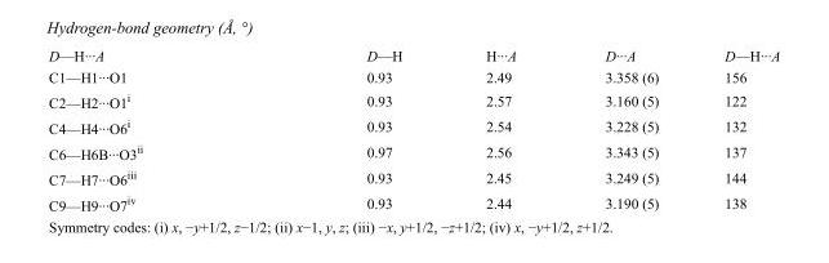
<table><tbody><tr><td>D—H···A</td><td>D—H</td><td>H···A</td><td>D···A</td><td>D—H···A</td></tr><tr><td>C1—H1···O1</td><td>0.93</td><td>2.49</td><td>3.358 (6)</td><td>156</td></tr><tr><td>C2—H2···O1<sup>i</sup></td><td>0.93</td><td>2.57</td><td>3.160 (5)</td><td>122</td></tr><tr><td>C4—H4···O6<sup>i</sup></td><td>0.93</td><td>2.54</td><td>3.228 (5)</td><td>132</td></tr><tr><td>C6—H6B···O3<sup>ii</sup></td><td>0.97</td><td>2.56</td><td>3.343 (5)</td><td>137</td></tr><tr><td>C7—H7···O6<sup>iii</sup></td><td>0.93</td><td>2.45</td><td>3.249 (5)</td><td>144</td></tr><tr><td>C9—H9···O7<sup>iv</sup></td><td>0.93</td><td>2.44</td><td>3.190 (5)</td><td>138</td></tr></tbody></table>